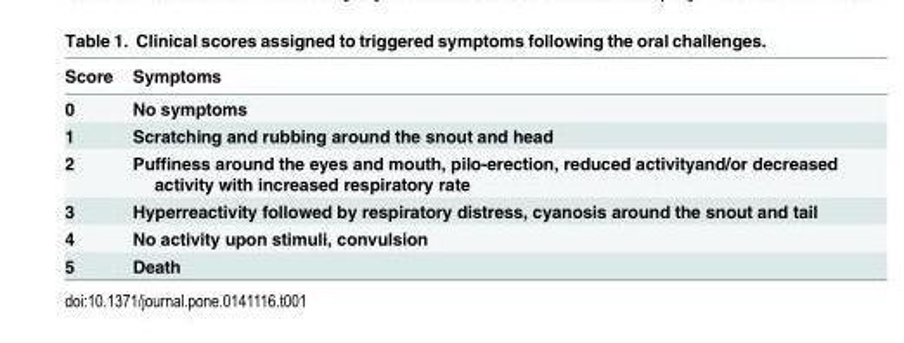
<table><thead><tr><td>Score</td><td>Symptoms</td></tr></thead><tbody><tr><td>0</td><td>No symptoms</td></tr><tr><td>1</td><td>Scratching and rubbing around the snout and head</td></tr><tr><td>2</td><td>Puffiness around the eyes and mouth, pilo-erection, reduced activityand/or decreased activity with increased respiratory rate</td></tr><tr><td>3</td><td>Hyperreactivity followed by respiratory distress, cyanosis around the snout and tail</td></tr><tr><td>4</td><td>No activity upon stimuli, convulsion</td></tr><tr><td>5</td><td>Death</td></tr></tbody></table>